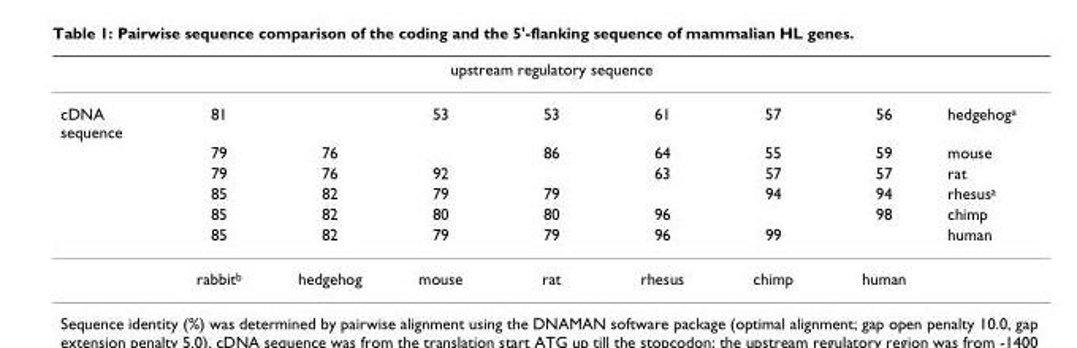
<table><thead><tr><td rowspan="2">cDNA sequence</td><td colspan="7">upstream regulatory sequence</td><td rowspan="2">hedgehoga</td></tr><tr><td>81</td><td></td><td>53</td><td>53</td><td>61</td><td>57</td><td>56</td></tr></thead><tbody><tr><td></td><td>79</td><td>76</td><td></td><td>86</td><td>64</td><td>55</td><td>59</td><td>mouse</td></tr><tr><td></td><td>79</td><td>76</td><td>92</td><td></td><td>63</td><td>57</td><td>57</td><td>rat</td></tr><tr><td></td><td>85</td><td>82</td><td>79</td><td>79</td><td></td><td>94</td><td>94</td><td>rhesusa</td></tr><tr><td></td><td>85</td><td>82</td><td>80</td><td>80</td><td>96</td><td></td><td>98</td><td>chimp</td></tr><tr><td></td><td>85</td><td>82</td><td>79</td><td>79</td><td>96</td><td>99</td><td></td><td>human</td></tr><tr><td></td><td>rabbitb</td><td>hedgehog</td><td>mouse</td><td>rat</td><td>rhesus</td><td>chimp</td><td>human</td><td></td></tr></tbody></table>